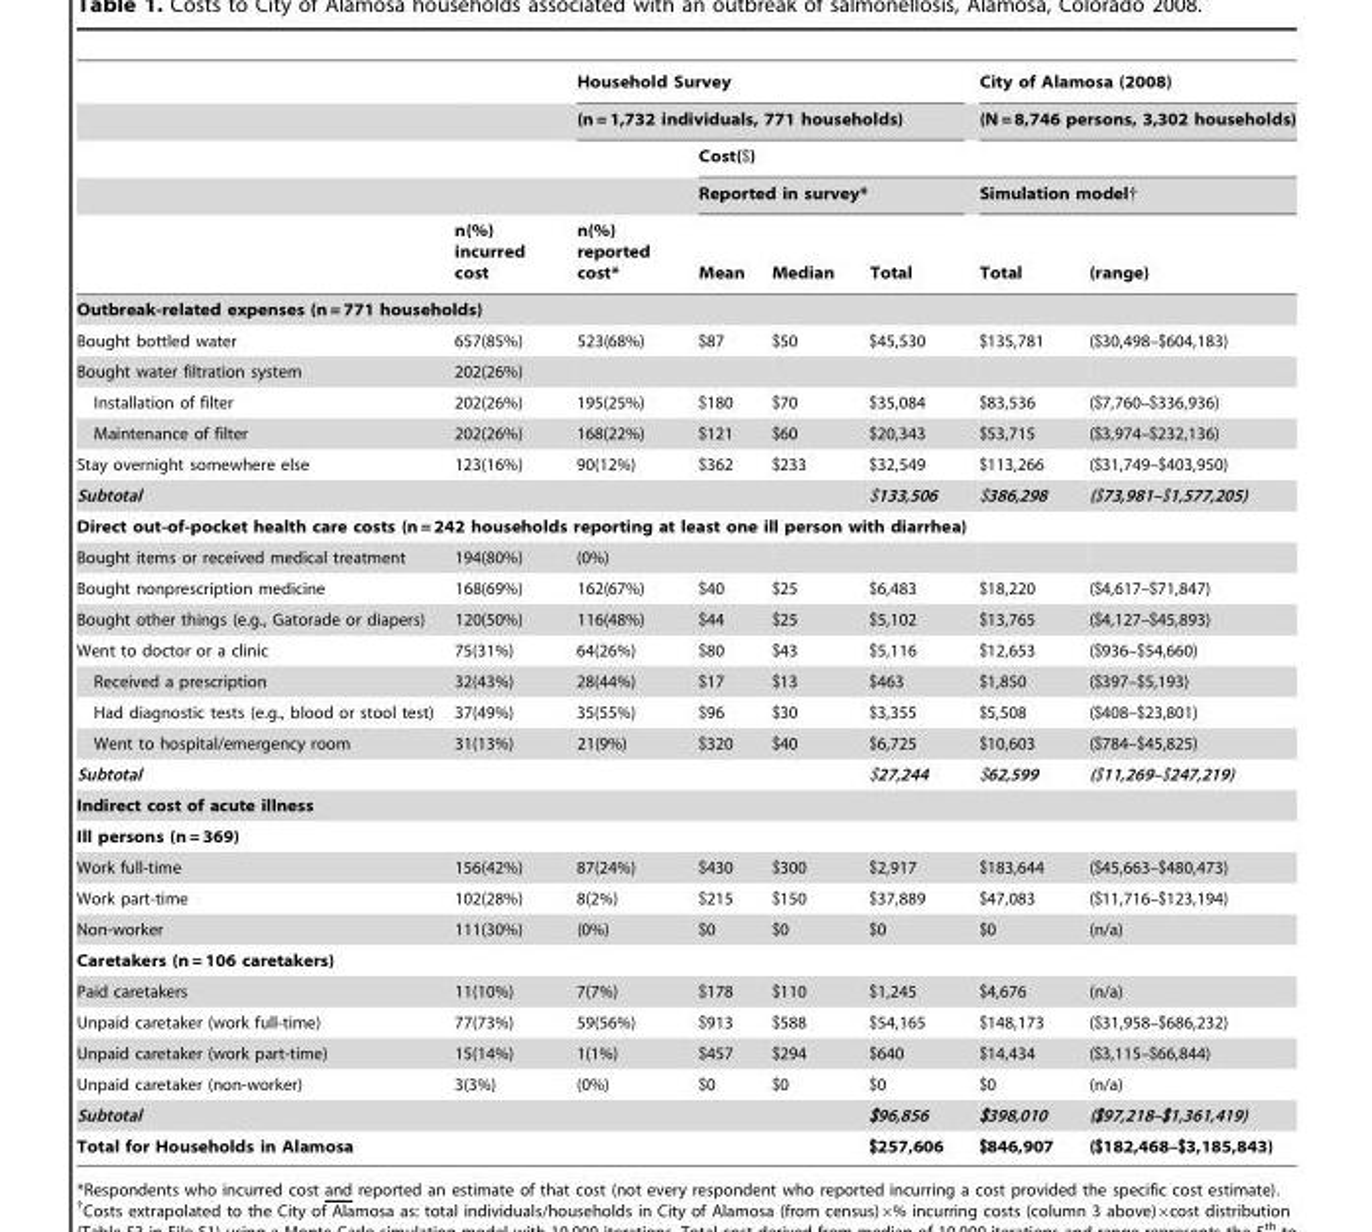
<table><thead><tr><td rowspan="5"></td><td rowspan="5">n(%) incurred cost</td><td rowspan="2" colspan="4">Household Survey (n = 1,732 individuals, 771 households)</td><td rowspan="2" colspan="2">City of Alamosa (2008) (N = 8,746 persons, 3,302 households)</td></tr><tr></tr><tr><td rowspan="3">n(%) reported cost*</td><td colspan="5">Cost($)</td></tr><tr><td colspan="3">Reported in survey*</td><td colspan="2">Simulation model†</td></tr><tr><td>Mean</td><td>Median</td><td>Total</td><td>Total</td><td>(range)</td></tr></thead><tbody><tr><td colspan="8">Outbreak-related expenses (n = 771 households)</td></tr><tr><td>Bought bottled water</td><td>657(85%)</td><td>523(68%)</td><td>$87</td><td>$50</td><td>$45,530</td><td>$135,781</td><td>($30,498–$604,183)</td></tr><tr><td>Bought water filtration system</td><td>202(26%)</td><td></td><td></td><td></td><td></td><td></td><td></td></tr><tr><td>Installation of filter</td><td>202(26%)</td><td>195(25%)</td><td>$180</td><td>$70</td><td>$35,084</td><td>$83,536</td><td>($7,760–$336,936)</td></tr><tr><td>Maintenance of filter</td><td>202(26%)</td><td>168(22%)</td><td>$121</td><td>$60</td><td>$20,343</td><td>$53,715</td><td>($3,974–$232,136)</td></tr><tr><td>Stay overnight somewhere else</td><td>123(16%)</td><td>90(12%)</td><td>$362</td><td>$233</td><td>$32,549</td><td>$113,266</td><td>($31,749–$403,950)</td></tr><tr><td colspan="5">Subtotal</td><td>$133,506</td><td>$386,298</td><td>($73,981–$1,577,205)</td></tr><tr><td colspan="8">Direct out-of-pocket health care costs (n = 242 households reporting at least one ill person with diarrhea)</td></tr><tr><td>Bought items or received medical treatment</td><td>194(80%)</td><td>(0%)</td><td></td><td></td><td></td><td></td><td></td></tr><tr><td>Bought nonprescription medicine</td><td>168(69%)</td><td>162(67%)</td><td>$40</td><td>$25</td><td>$6,483</td><td>$18,220</td><td>($4,617–$71,847)</td></tr><tr><td>Bought other things (e.g., Gatorade or diapers)</td><td>120(50%)</td><td>116(48%)</td><td>$44</td><td>$25</td><td>$5,102</td><td>$13,765</td><td>($4,127–$45,893)</td></tr><tr><td>Went to doctor or a clinic</td><td>75(31%)</td><td>64(26%)</td><td>$80</td><td>$43</td><td>$5,116</td><td>$12,653</td><td>($936–$54,660)</td></tr><tr><td>Received a prescription</td><td>32(43%)</td><td>28(44%)</td><td>$17</td><td>$13</td><td>$463</td><td>$1,850</td><td>($397–$5,193)</td></tr><tr><td>Had diagnostic tests (e.g., blood or stool test)</td><td>37(49%)</td><td>35(55%)</td><td>$96</td><td>$30</td><td>$3,355</td><td>$5,508</td><td>($408–$23,801)</td></tr><tr><td>Went to hospital/emergency room</td><td>31(13%)</td><td>21(9%)</td><td>$320</td><td>$40</td><td>$6,725</td><td>$10,603</td><td>($784–$45,825)</td></tr><tr><td colspan="5">Subtotal</td><td>$27,244</td><td>$62,599</td><td>($11,269–$247,219)</td></tr><tr><td colspan="8">Indirect cost of acute illness</td></tr><tr><td colspan="8">Ill persons (n = 369)</td></tr><tr><td>Work full-time</td><td>156(42%)</td><td>87(24%)</td><td>$430</td><td>$300</td><td>$2,917</td><td>$183,644</td><td>($45,663–$480,473)</td></tr><tr><td>Work part-time</td><td>102(28%)</td><td>8(2%)</td><td>$215</td><td>$150</td><td>$37,889</td><td>$47,083</td><td>($11,716–$123,194)</td></tr><tr><td>Non-worker</td><td>111(30%)</td><td>(0%)</td><td>$0</td><td>$0</td><td>$0</td><td>$0</td><td>(n/a)</td></tr><tr><td colspan="8">Caretakers (n = 106 caretakers)</td></tr><tr><td>Paid caretakers</td><td>11(10%)</td><td>7(7%)</td><td>$178</td><td>$110</td><td>$1,245</td><td>$4,676</td><td>(n/a)</td></tr><tr><td>Unpaid caretaker (work full-time)</td><td>77(73%)</td><td>59(56%)</td><td>$913</td><td>$588</td><td>$54,165</td><td>$148,173</td><td>($31,958–$686,232)</td></tr><tr><td>Unpaid caretaker (work part-time)</td><td>15(14%)</td><td>1(1%)</td><td>$457</td><td>$294</td><td>$640</td><td>$14,434</td><td>($3,115–$66,844)</td></tr><tr><td>Unpaid caretaker (non-worker)</td><td>3(3%)</td><td>(0%)</td><td>$0</td><td>$0</td><td>$0</td><td>$0</td><td>(n/a)</td></tr><tr><td colspan="5">Subtotal</td><td>$96,856</td><td>$398,010</td><td>($97,218–$1,361,419)</td></tr><tr><td colspan="5">Total for Households in Alamosa</td><td>$257,606</td><td>$846,907</td><td>($182,468–$3,185,843)</td></tr></tbody></table>